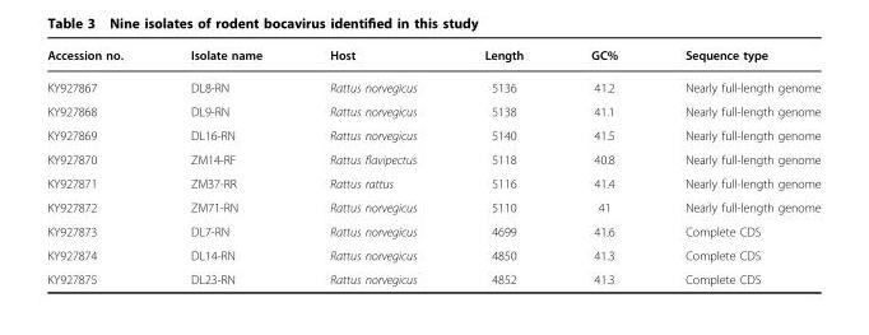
<table><thead><tr><td>Accession no.</td><td>Isolate name</td><td>Host</td><td>Length</td><td>GC%</td><td>Sequence type</td></tr></thead><tbody><tr><td>KY927867</td><td>DL8-RN</td><td>Rattus norvegicus</td><td>5136</td><td>41.2</td><td>Nearly full-length genome</td></tr><tr><td>KY927868</td><td>DL9-RN</td><td>Rattus norvegicus</td><td>5138</td><td>41.1</td><td>Nearly full-length genome</td></tr><tr><td>KY927869</td><td>DL16-RN</td><td>Rattus norvegicus</td><td>5140</td><td>41.5</td><td>Nearly full-length genome</td></tr><tr><td>KY927870</td><td>ZM14-RF</td><td>Rattus flavipectus</td><td>5118</td><td>40.8</td><td>Nearly full-length genome</td></tr><tr><td>KY927871</td><td>ZM37-RR</td><td>Rattus rattus</td><td>5116</td><td>41.4</td><td>Nearly full-length genome</td></tr><tr><td>KY927872</td><td>ZM71-RN</td><td>Rattus norvegicus</td><td>5110</td><td>41</td><td>Nearly full-length genome</td></tr><tr><td>KY927873</td><td>DL7-RN</td><td>Rattus norvegicus</td><td>4699</td><td>41.6</td><td>Complete CDS</td></tr><tr><td>KY927874</td><td>DL14-RN</td><td>Rattus norvegicus</td><td>4850</td><td>41.3</td><td>Complete CDS</td></tr><tr><td>KY927875</td><td>DL23-RN</td><td>Rattus norvegicus</td><td>4852</td><td>41.3</td><td>Complete CDS</td></tr></tbody></table>